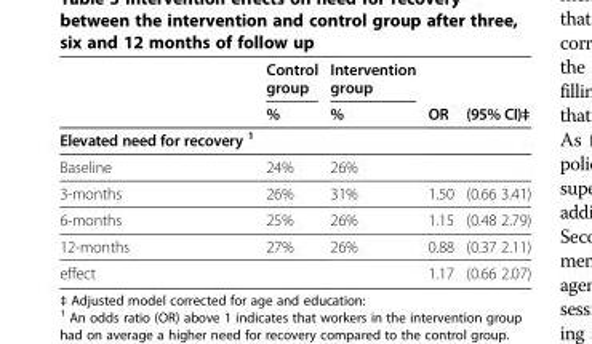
<table><thead><tr><td rowspan="2"></td><td rowspan="2">Control group %</td><td rowspan="2">Intervention group %</td><td rowspan="2">OR</td><td rowspan="2">(95% CI)‡</td></tr><tr></tr></thead><tbody><tr><td colspan="5">Elevated need for recovery <sup>1</sup></td></tr><tr><td>Baseline</td><td>24%</td><td>26%</td><td></td><td></td></tr><tr><td>3-months</td><td>26%</td><td>31%</td><td>1.50</td><td>(0.66 3.41)</td></tr><tr><td>6-months</td><td>25%</td><td>26%</td><td>1.15</td><td>(0.48 2.79)</td></tr><tr><td>12-months</td><td>27%</td><td>26%</td><td>0.88</td><td>(0.37 2.11)</td></tr><tr><td>effect</td><td></td><td></td><td>1.17</td><td>(0.66 2.07)</td></tr></tbody></table>